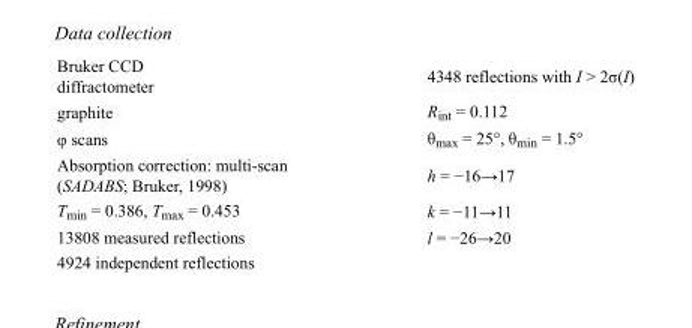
<table><tbody><tr><td>Bruker CCD diffractometer</td><td>4348 reflections with I &gt; 2σ(I)</td></tr><tr><td>graphite</td><td>R<sub>int</sub> = 0.112</td></tr><tr><td>φ scans</td><td>θ<sub>max</sub> = 25°, θ<sub>min</sub> = 1.5°</td></tr><tr><td>Absorption correction: multi-scan (SADABS; Bruker, 1998)</td><td>h = −16→17</td></tr><tr><td>T<sub>min</sub> = 0.386, T<sub>max</sub> = 0.453</td><td>k = −11→11</td></tr><tr><td>13808 measured reflections</td><td>l = −26→20</td></tr><tr><td>4924 independent reflections</td><td></td></tr></tbody></table>